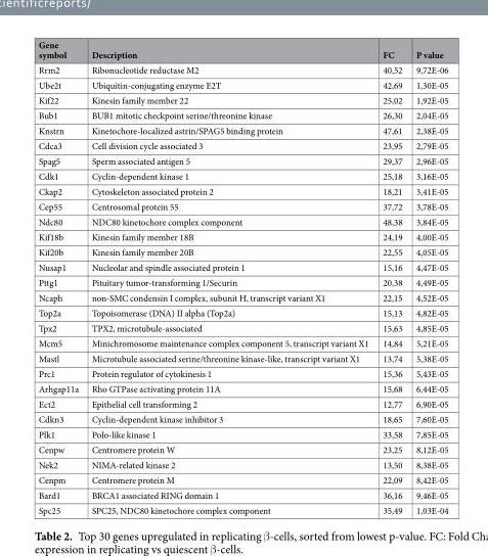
<table><thead><tr><td>Gene symbol</td><td>Description</td><td>FC</td><td>P value</td></tr></thead><tbody><tr><td>Rrm2</td><td>Ribonucleotide reductase M2</td><td>40,52</td><td>9,72E-06</td></tr><tr><td>Ube2t</td><td>Ubiquitin-conjugating enzyme E2T</td><td>42,69</td><td>1,30E-05</td></tr><tr><td>Kif22</td><td>Kinesin family member 22</td><td>25,02</td><td>1,92E-05</td></tr><tr><td>Bub1</td><td>BUB1 mitotic checkpoint serine/threonine kinase</td><td>26,30</td><td>2,04E-05</td></tr><tr><td>Knstrn</td><td>Kinetochore-localized astrin/SPAG5 binding protein</td><td>47,61</td><td>2,38E-05</td></tr><tr><td>Cdca3</td><td>Cell division cycle associated 3</td><td>23,95</td><td>2,79E-05</td></tr><tr><td>Spag5</td><td>Sperm associated antigen 5</td><td>29,37</td><td>2,96E-05</td></tr><tr><td>Cdk1</td><td>Cyclin-dependent kinase 1</td><td>25,18</td><td>3,16E-05</td></tr><tr><td>Ckap2</td><td>Cytoskeleton associated protein 2</td><td>18,21</td><td>3,41E-05</td></tr><tr><td>Cep55</td><td>Centrosomal protein 55</td><td>37,72</td><td>3,78E-05</td></tr><tr><td>Ndc80</td><td>NDC80 kinetochore complex component</td><td>48,38</td><td>3,84E-05</td></tr><tr><td>Kif18b</td><td>Kinesin family member 18B</td><td>24,19</td><td>4,00E-05</td></tr><tr><td>Kif20b</td><td>Kinesin family member 20B</td><td>22,55</td><td>4,05E-05</td></tr><tr><td>Nusap1</td><td>Nucleolar and spindle associated protein 1</td><td>15,16</td><td>4,47E-05</td></tr><tr><td>Pttg1</td><td>Pituitary tumor-transforming 1/Securin</td><td>20,38</td><td>4,49E-05</td></tr><tr><td>Ncaph</td><td>non-SMC condensin I complex, subunit H, transcript variant X1</td><td>22,15</td><td>4,52E-05</td></tr><tr><td>Top2a</td><td>Topoisomerase (DNA) II alpha (Top2a)</td><td>15,13</td><td>4,82E-05</td></tr><tr><td>Tpx2</td><td>TPX2, microtubule-associated</td><td>15,63</td><td>4,85E-05</td></tr><tr><td>Mcm5</td><td>Minichromosome maintenance complex component 5, transcript variant X1</td><td>14,84</td><td>5,21E-05</td></tr><tr><td>Mastl</td><td>Microtubule associated serine/threonine kinase-like, transcript variant X1</td><td>13,74</td><td>5,38E-05</td></tr><tr><td>Prc1</td><td>Protein regulator of cytokinesis 1</td><td>15,36</td><td>5,43E-05</td></tr><tr><td>Arhgap11a</td><td>Rho GTPase activating protein 11A</td><td>15,68</td><td>6,44E-05</td></tr><tr><td>Ect2</td><td>Epithelial cell transforming 2</td><td>12,77</td><td>6,90E-05</td></tr><tr><td>Cdkn3</td><td>Cyclin-dependent kinase inhibitor 3</td><td>18,65</td><td>7,60E-05</td></tr><tr><td>Plk1</td><td>Polo-like kinase 1</td><td>33,58</td><td>7,85E-05</td></tr><tr><td>Cenpw</td><td>Centromere protein W</td><td>23,25</td><td>8,12E-05</td></tr><tr><td>Nek2</td><td>NIMA-related kinase 2</td><td>13,50</td><td>8,38E-05</td></tr><tr><td>Cenpm</td><td>Centromere protein M</td><td>22,09</td><td>8,42E-05</td></tr><tr><td>Bard1</td><td>BRCA1 associated RING domain 1</td><td>36,16</td><td>9,46E-05</td></tr><tr><td>Spc25</td><td>SPC25, NDC80 kinetochore complex component</td><td>35,49</td><td>1,03E-04</td></tr></tbody></table>